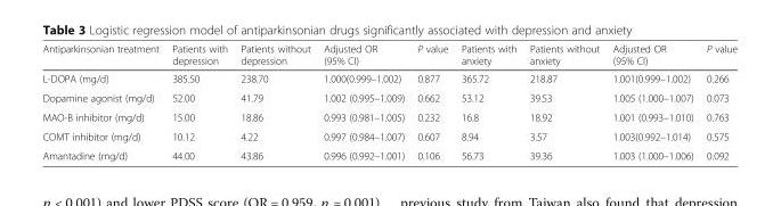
<table><thead><tr><td>Antiparkinsonian treatment</td><td>Patients with depression</td><td>Patients without depression</td><td>Adjusted OR (95% CI)</td><td>P value</td><td>Patients with anxiety</td><td>Patients without anxiety</td><td>Adjusted OR (95% CI)</td><td>P value</td></tr></thead><tbody><tr><td>L-DOPA (mg/d)</td><td>385.50</td><td>238.70</td><td>1.000(0.999–1.002)</td><td>0.877</td><td>365.72</td><td>218.87</td><td>1.001(0.999–1.002)</td><td>0.266</td></tr><tr><td>Dopamine agonist (mg/d)</td><td>52.00</td><td>41.79</td><td>1.002 (0.995–1.009)</td><td>0.662</td><td>53.12</td><td>39.53</td><td>1.005 (1.000–1.007)</td><td>0.073</td></tr><tr><td>MAO-B inhibitor (mg/d)</td><td>15.00</td><td>18.86</td><td>0.993 (0.981–1.005)</td><td>0.232</td><td>16.8</td><td>18.92</td><td>1.001 (0.993–1.010)</td><td>0.763</td></tr><tr><td>COMT inhibitor (mg/d)</td><td>10.12</td><td>4.22</td><td>0.997 (0.984–1.007)</td><td>0.607</td><td>8.94</td><td>3.57</td><td>1.003(0.992–1.014)</td><td>0.575</td></tr><tr><td>Amantadine (mg/d)</td><td>44.00</td><td>43.86</td><td>0.996 (0.992–1.001)</td><td>0.106</td><td>56.73</td><td>39.36</td><td>1.003 (1.000–1.006)</td><td>0.092</td></tr></tbody></table>